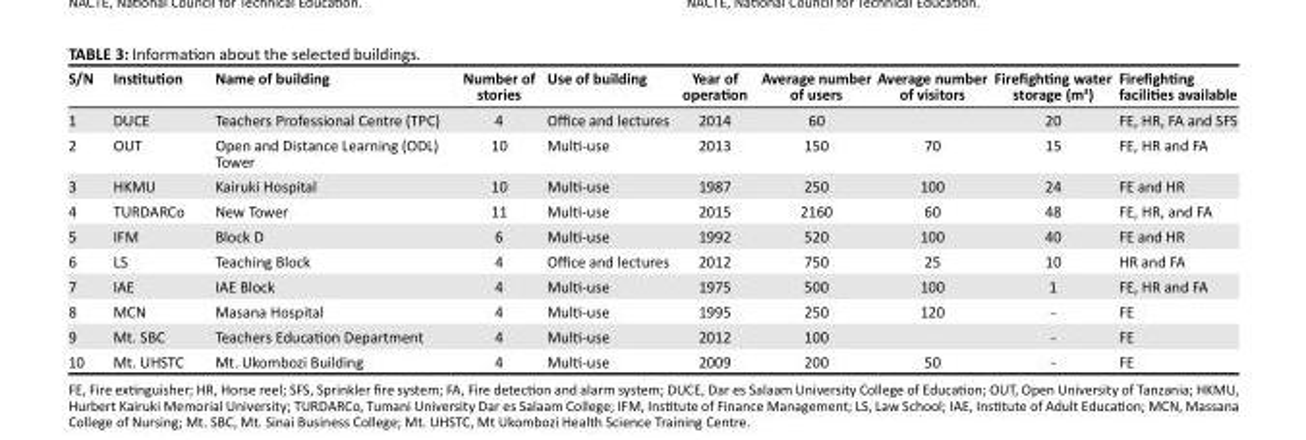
<table><thead><tr><td>S/N</td><td>Institution</td><td>Name of building</td><td>Number of stories</td><td>Use of building</td><td>Year of operation</td><td>Average number of users</td><td>Average number of visitors</td><td>Firefighting water storage (m<sup>3</sup>)</td><td>Firefighting facilities available</td></tr></thead><tbody><tr><td>1</td><td>DUCE</td><td>Teachers Professional Centre (TPC)</td><td>4</td><td>Office and lectures</td><td>2014</td><td>60</td><td></td><td>20</td><td>FE, HR, FA and SFS</td></tr><tr><td>2</td><td>OUT</td><td>Open and Distance Learning (ODL) Tower</td><td>10</td><td>Multi-use</td><td>2013</td><td>150</td><td>70</td><td>15</td><td>FE, HR and FA</td></tr><tr><td>3</td><td>HKMU</td><td>Kairuki Hospital</td><td>10</td><td>Multi-use</td><td>1987</td><td>250</td><td>100</td><td>24</td><td>FE and HR</td></tr><tr><td>4</td><td>TURDARCo</td><td>New Tower</td><td>11</td><td>Multi-use</td><td>2015</td><td>2160</td><td>60</td><td>48</td><td>FE, HR, and FA</td></tr><tr><td>5</td><td>IFM</td><td>Block D</td><td>6</td><td>Multi-use</td><td>1992</td><td>520</td><td>100</td><td>40</td><td>FE and HR</td></tr><tr><td>6</td><td>LS</td><td>Teaching Block</td><td>4</td><td>Office and lectures</td><td>2012</td><td>750</td><td>25</td><td>10</td><td>HR and FA</td></tr><tr><td>7</td><td>IAE</td><td>IAE Block</td><td>4</td><td>Multi-use</td><td>1975</td><td>500</td><td>100</td><td>1</td><td>FE, HR and FA</td></tr><tr><td>8</td><td>MCN</td><td>Masana Hospital</td><td>4</td><td>Multi-use</td><td>1995</td><td>250</td><td>120</td><td>-</td><td>FE</td></tr><tr><td>9</td><td>Mt. SBC</td><td>Teachers Education Department</td><td>4</td><td>Multi-use</td><td>2012</td><td>100</td><td></td><td>-</td><td>FE</td></tr><tr><td>10</td><td>Mt. UHSTC</td><td>Mt. Ukombozi Building</td><td>4</td><td>Multi-use</td><td>2009</td><td>200</td><td>50</td><td>-</td><td>FE</td></tr></tbody></table>